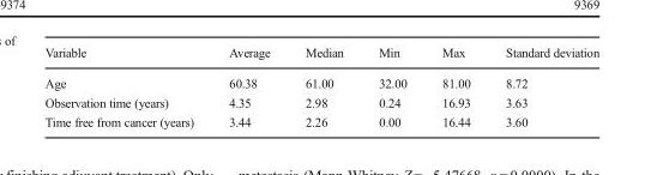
<table><thead><tr><td>Variable</td><td>Average</td><td>Median</td><td>Min</td><td>Max</td><td>Standard deviation</td></tr></thead><tbody><tr><td>Age</td><td>60.38</td><td>61.00</td><td>32.00</td><td>81.00</td><td>8.72</td></tr><tr><td>Observation time (years)</td><td>4.35</td><td>2.98</td><td>0.24</td><td>16.93</td><td>3.63</td></tr><tr><td>Time free from cancer (years)</td><td>3.44</td><td>2.26</td><td>0.00</td><td>16.44</td><td>3.60</td></tr></tbody></table>